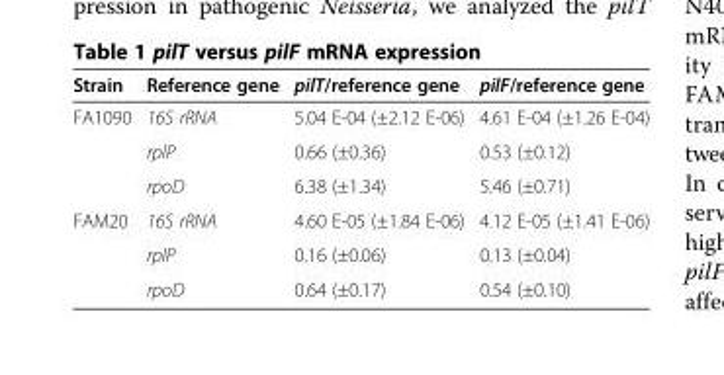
<table><thead><tr><td>Strain</td><td>Reference gene</td><td>pilT/reference gene</td><td>pilF/reference gene</td></tr></thead><tbody><tr><td rowspan="3">FA1090</td><td>16S rRNA</td><td>5.04 E-04 (±2.12 E-06)</td><td>4.61 E-04 (±1.26 E-04)</td></tr><tr><td>rplP</td><td>0.66 (±0.36)</td><td>0.53 (±0.12)</td></tr><tr><td>rpoD</td><td>6.38 (±1.34)</td><td>5.46 (±0.71)</td></tr><tr><td rowspan="3">FAM20</td><td>16S rRNA</td><td>4.60 E-05 (±1.84 E-06)</td><td>4.12 E-05 (±1.41 E-06)</td></tr><tr><td>rplP</td><td>0.16 (±0.06)</td><td>0.13 (±0.04)</td></tr><tr><td>rpoD</td><td>0.64 (±0.17)</td><td>0.54 (±0.10)</td></tr></tbody></table>